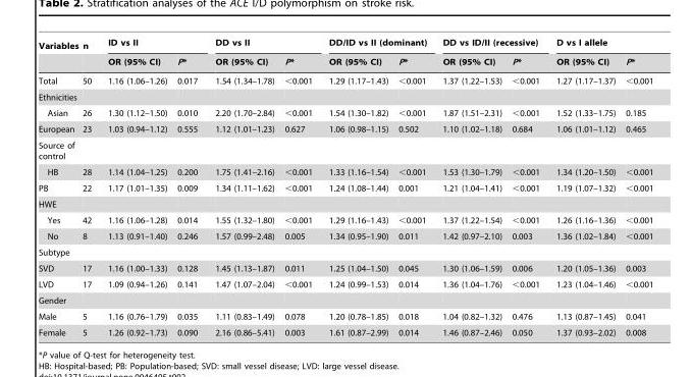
<table><thead><tr><td rowspan="2">Variables</td><td rowspan="2">n</td><td colspan="2">ID vs II</td><td colspan="2">DD vs II</td><td colspan="2">DD/ID vs II (dominant)</td><td colspan="2">DD vs ID/II (recessive)</td><td colspan="2">D vs I allele</td></tr><tr><td>OR (95% CI)</td><td>P*</td><td>OR (95% CI)</td><td>P*</td><td>OR (95% CI)</td><td>P*</td><td>OR (95% CI)</td><td>P*</td><td>OR (95% CI)</td><td>P*</td></tr></thead><tbody><tr><td>Total</td><td>50</td><td>1.16 (1.06–1.26)</td><td>0.017</td><td>1.54 (1.34–1.78)</td><td>&lt;0.001</td><td>1.29 (1.17–1.43)</td><td>&lt;0.001</td><td>1.37 (1.22–1.53)</td><td>&lt;0.001</td><td>1.27 (1.17–1.37)</td><td>&lt;0.001</td></tr><tr><td colspan="12">Ethnicities</td></tr><tr><td>Asian</td><td>26</td><td>1.30 (1.12–1.50)</td><td>0.010</td><td>2.20 (1.70–2.84)</td><td>&lt;0.001</td><td>1.54 (1.30–1.82)</td><td>&lt;0.001</td><td>1.87 (1.51–2.31)</td><td>&lt;0.001</td><td>1.52 (1.33–1.75)</td><td>0.185</td></tr><tr><td>European</td><td>23</td><td>1.03 (0.94–1.12)</td><td>0.555</td><td>1.12 (1.01–1.23)</td><td>0.627</td><td>1.06 (0.98–1.15)</td><td>0.502</td><td>1.10 (1.02–1.18)</td><td>0.684</td><td>1.06 (1.01–1.12)</td><td>0.465</td></tr><tr><td colspan="12">Source of control</td></tr><tr><td>HB</td><td>28</td><td>1.14 (1.04–1.25)</td><td>0.200</td><td>1.75 (1.41–2.16)</td><td>&lt;0.001</td><td>1.33 (1.16–1.54)</td><td>&lt;0.001</td><td>1.53 (1.30–1.79)</td><td>&lt;0.001</td><td>1.34 (1.20–1.50)</td><td>&lt;0.001</td></tr><tr><td>PB</td><td>22</td><td>1.17 (1.01–1.35)</td><td>0.009</td><td>1.34 (1.11–1.62)</td><td>&lt;0.001</td><td>1.24 (1.08–1.44)</td><td>0.001</td><td>1.21 (1.04–1.41)</td><td>&lt;0.001</td><td>1.19 (1.07–1.32)</td><td>&lt;0.001</td></tr><tr><td colspan="12">HWE</td></tr><tr><td>Yes</td><td>42</td><td>1.16 (1.06–1.28)</td><td>0.014</td><td>1.55 (1.32–1.80)</td><td>&lt;0.001</td><td>1.29 (1.16–1.43)</td><td>&lt;0.001</td><td>1.37 (1.22–1.54)</td><td>&lt;0.001</td><td>1.26 (1.16–1.36)</td><td>&lt;0.001</td></tr><tr><td>No</td><td>8</td><td>1.13 (0.91–1.40)</td><td>0.246</td><td>1.57 (0.99–2.48)</td><td>0.005</td><td>1.34 (0.95–1.90)</td><td>0.011</td><td>1.42 (0.97–2.10)</td><td>0.003</td><td>1.36 (1.02–1.84)</td><td>&lt;0.001</td></tr><tr><td colspan="12">Subtype</td></tr><tr><td>SVD</td><td>17</td><td>1.16 (1.00–1.33)</td><td>0.128</td><td>1.45 (1.13–1.87)</td><td>0.011</td><td>1.25 (1.04–1.50)</td><td>0.045</td><td>1.30 (1.06–1.59)</td><td>0.006</td><td>1.20 (1.05–1.36)</td><td>0.003</td></tr><tr><td>LVD</td><td>17</td><td>1.09 (0.94–1.26)</td><td>0.141</td><td>1.47 (1.07–2.04)</td><td>&lt;0.001</td><td>1.24 (0.99–1.53)</td><td>0.014</td><td>1.36 (1.04–1.76)</td><td>&lt;0.001</td><td>1.23 (1.04–1.46)</td><td>&lt;0.001</td></tr><tr><td colspan="12">Gender</td></tr><tr><td>Male</td><td>5</td><td>1.16 (0.76–1.79)</td><td>0.035</td><td>1.11 (0.83–1.49)</td><td>0.078</td><td>1.20 (0.78–1.85)</td><td>0.018</td><td>1.04 (0.82–1.32)</td><td>0.476</td><td>1.13 (0.87–1.45)</td><td>0.041</td></tr><tr><td>Female</td><td>5</td><td>1.26 (0.92–1.73)</td><td>0.090</td><td>2.16 (0.86–5.41)</td><td>0.003</td><td>1.61 (0.87–2.99)</td><td>0.014</td><td>1.46 (0.87–2.46)</td><td>0.050</td><td>1.37 (0.93–2.02)</td><td>0.008</td></tr></tbody></table>